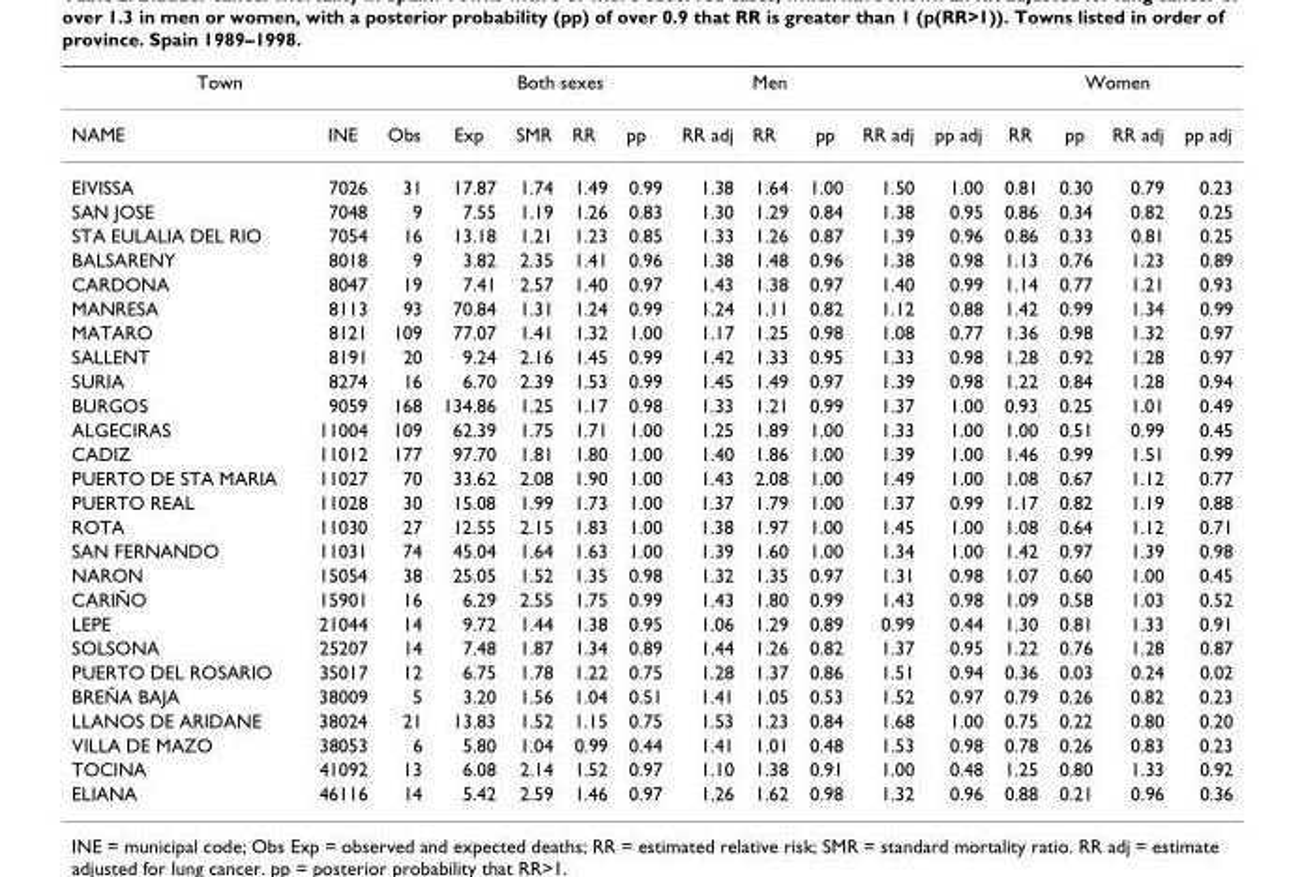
<table><thead><tr><td colspan="2">Town</td><td colspan="6">Both sexes</td><td colspan="4">Men</td><td colspan="4">Women</td></tr><tr><td>NAME</td><td>INE</td><td>Obs</td><td>Exp</td><td>SMR</td><td>RR</td><td>pp</td><td>RR adj</td><td>RR</td><td>pp</td><td>RR adj</td><td>pp adj</td><td>RR</td><td>pp</td><td>RR adj</td><td>pp adj</td></tr></thead><tbody><tr><td>EIVISSA</td><td>7026</td><td>31</td><td>17.87</td><td>1.74</td><td>1.49</td><td>0.99</td><td>1.38</td><td>1.64</td><td>1.00</td><td>1.50</td><td>1.00</td><td>0.81</td><td>0.30</td><td>0.79</td><td>0.23</td></tr><tr><td>SAN JOSE</td><td>7048</td><td>9</td><td>7.55</td><td>1.19</td><td>1.26</td><td>0.83</td><td>1.30</td><td>1.29</td><td>0.84</td><td>1.38</td><td>0.95</td><td>0.86</td><td>0.34</td><td>0.82</td><td>0.25</td></tr><tr><td>STA EULALIA DEL RIO</td><td>7054</td><td>16</td><td>13.18</td><td>1.21</td><td>1.23</td><td>0.85</td><td>1.33</td><td>1.26</td><td>0.87</td><td>1.39</td><td>0.96</td><td>0.86</td><td>0.33</td><td>0.81</td><td>0.25</td></tr><tr><td>BALSARENY</td><td>8018</td><td>9</td><td>3.82</td><td>2.35</td><td>1.41</td><td>0.96</td><td>1.38</td><td>1.48</td><td>0.96</td><td>1.38</td><td>0.98</td><td>1.13</td><td>0.76</td><td>1.23</td><td>0.89</td></tr><tr><td>CARDONA</td><td>8047</td><td>19</td><td>7.41</td><td>2.57</td><td>1.40</td><td>0.97</td><td>1.43</td><td>1.38</td><td>0.97</td><td>1.40</td><td>0.99</td><td>1.14</td><td>0.77</td><td>1.21</td><td>0.93</td></tr><tr><td>MANRESA</td><td>8113</td><td>93</td><td>70.84</td><td>1.31</td><td>1.24</td><td>0.99</td><td>1.24</td><td>1.11</td><td>0.82</td><td>1.12</td><td>0.88</td><td>1.42</td><td>0.99</td><td>1.34</td><td>0.99</td></tr><tr><td>MATARO</td><td>8121</td><td>109</td><td>77.07</td><td>1.41</td><td>1.32</td><td>1.00</td><td>1.17</td><td>1.25</td><td>0.98</td><td>1.08</td><td>0.77</td><td>1.36</td><td>0.98</td><td>1.32</td><td>0.97</td></tr><tr><td>SALLENT</td><td>8191</td><td>20</td><td>9.24</td><td>2.16</td><td>1.45</td><td>0.99</td><td>1.42</td><td>1.33</td><td>0.95</td><td>1.33</td><td>0.98</td><td>1.28</td><td>0.92</td><td>1.28</td><td>0.97</td></tr><tr><td>SURIA</td><td>8274</td><td>16</td><td>6.70</td><td>2.39</td><td>1.53</td><td>0.99</td><td>1.45</td><td>1.49</td><td>0.97</td><td>1.39</td><td>0.98</td><td>1.22</td><td>0.84</td><td>1.28</td><td>0.94</td></tr><tr><td>BURGOS</td><td>9059</td><td>168</td><td>134.86</td><td>1.25</td><td>1.17</td><td>0.98</td><td>1.33</td><td>1.21</td><td>0.99</td><td>1.37</td><td>1.00</td><td>0.93</td><td>0.25</td><td>1.01</td><td>0.49</td></tr><tr><td>ALGECIRAS</td><td>11004</td><td>109</td><td>62.39</td><td>1.75</td><td>1.71</td><td>1.00</td><td>1.25</td><td>1.89</td><td>1.00</td><td>1.33</td><td>1.00</td><td>1.00</td><td>0.51</td><td>0.99</td><td>0.45</td></tr><tr><td>CADIZ</td><td>11012</td><td>177</td><td>97.70</td><td>1.81</td><td>1.80</td><td>1.00</td><td>1.40</td><td>1.86</td><td>1.00</td><td>1.39</td><td>1.00</td><td>1.46</td><td>0.99</td><td>1.51</td><td>0.99</td></tr><tr><td>PUERTO DE STA MARIA</td><td>11027</td><td>70</td><td>33.62</td><td>2.08</td><td>1.90</td><td>1.00</td><td>1.43</td><td>2.08</td><td>1.00</td><td>1.49</td><td>1.00</td><td>1.08</td><td>0.67</td><td>1.12</td><td>0.77</td></tr><tr><td>PUERTO REAL</td><td>11028</td><td>30</td><td>15.08</td><td>1.99</td><td>1.73</td><td>1.00</td><td>1.37</td><td>1.79</td><td>1.00</td><td>1.37</td><td>0.99</td><td>1.17</td><td>0.82</td><td>1.19</td><td>0.88</td></tr><tr><td>ROTA</td><td>11030</td><td>27</td><td>12.55</td><td>2.15</td><td>1.83</td><td>1.00</td><td>1.38</td><td>1.97</td><td>1.00</td><td>1.45</td><td>1.00</td><td>1.08</td><td>0.64</td><td>1.12</td><td>0.71</td></tr><tr><td>SAN FERNANDO</td><td>11031</td><td>74</td><td>45.04</td><td>1.64</td><td>1.63</td><td>1.00</td><td>1.39</td><td>1.60</td><td>1.00</td><td>1.34</td><td>1.00</td><td>1.42</td><td>0.97</td><td>1.39</td><td>0.98</td></tr><tr><td>NARON</td><td>15054</td><td>38</td><td>25.05</td><td>1.52</td><td>1.35</td><td>0.98</td><td>1.32</td><td>1.35</td><td>0.97</td><td>1.31</td><td>0.98</td><td>1.07</td><td>0.60</td><td>1.00</td><td>0.45</td></tr><tr><td>CARIÑO</td><td>15901</td><td>16</td><td>6.29</td><td>2.55</td><td>1.75</td><td>0.99</td><td>1.43</td><td>1.80</td><td>0.99</td><td>1.43</td><td>0.98</td><td>1.09</td><td>0.58</td><td>1.03</td><td>0.52</td></tr><tr><td>LEPE</td><td>21044</td><td>14</td><td>9.72</td><td>1.44</td><td>1.38</td><td>0.95</td><td>1.06</td><td>1.29</td><td>0.89</td><td>0.99</td><td>0.44</td><td>1.30</td><td>0.81</td><td>1.33</td><td>0.91</td></tr><tr><td>SOLSONA</td><td>25207</td><td>14</td><td>7.48</td><td>1.87</td><td>1.34</td><td>0.89</td><td>1.44</td><td>1.26</td><td>0.82</td><td>1.37</td><td>0.95</td><td>1.22</td><td>0.76</td><td>1.28</td><td>0.87</td></tr><tr><td>PUERTO DEL ROSARIO</td><td>35017</td><td>12</td><td>6.75</td><td>1.78</td><td>1.22</td><td>0.75</td><td>1.28</td><td>1.37</td><td>0.86</td><td>1.51</td><td>0.94</td><td>0.36</td><td>0.03</td><td>0.24</td><td>0.02</td></tr><tr><td>BREÑA BAJA</td><td>38009</td><td>5</td><td>3.20</td><td>1.56</td><td>1.04</td><td>0.51</td><td>1.41</td><td>1.05</td><td>0.53</td><td>1.52</td><td>0.97</td><td>0.79</td><td>0.26</td><td>0.82</td><td>0.23</td></tr><tr><td>LLANOS DE ARIDANE</td><td>38024</td><td>21</td><td>13.83</td><td>1.52</td><td>1.15</td><td>0.75</td><td>1.53</td><td>1.23</td><td>0.84</td><td>1.68</td><td>1.00</td><td>0.75</td><td>0.22</td><td>0.80</td><td>0.20</td></tr><tr><td>VILLA DE MAZO</td><td>38053</td><td>6</td><td>5.80</td><td>1.04</td><td>0.99</td><td>0.44</td><td>1.41</td><td>1.01</td><td>0.48</td><td>1.53</td><td>0.98</td><td>0.78</td><td>0.26</td><td>0.83</td><td>0.23</td></tr><tr><td>TOCINA</td><td>41092</td><td>13</td><td>6.08</td><td>2.14</td><td>1.52</td><td>0.97</td><td>1.10</td><td>1.38</td><td>0.91</td><td>1.00</td><td>0.48</td><td>1.25</td><td>0.80</td><td>1.33</td><td>0.92</td></tr><tr><td>ELIANA</td><td>46116</td><td>14</td><td>5.42</td><td>2.59</td><td>1.46</td><td>0.97</td><td>1.26</td><td>1.62</td><td>0.98</td><td>1.32</td><td>0.96</td><td>0.88</td><td>0.21</td><td>0.96</td><td>0.36</td></tr></tbody></table>